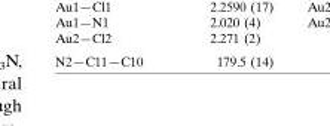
<table><tbody><tr><td>N2—C11—C10</td><td>179.5 (14)</td></tr></tbody></table>